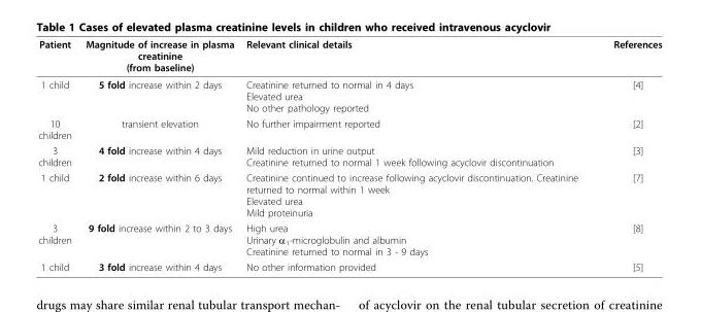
<table><thead><tr><td>Patient</td><td>Magnitude of increase in plasma creatinine (from baseline)</td><td>Relevant clinical details</td><td>References</td></tr></thead><tbody><tr><td>1 child</td><td>5 fold increase within 2 days</td><td>Creatinine returned to normal in 4 days Elevated urea No other pathology reported</td><td>[4]</td></tr><tr><td>10 children</td><td>transient elevation</td><td>No further impairment reported</td><td>[2]</td></tr><tr><td>3 children</td><td>4 fold increase within 4 days</td><td>Mild reduction in urine output Creatinine returned to normal 1 week following acyclovir discontinuation</td><td>[3]</td></tr><tr><td>1 child</td><td>2 fold increase within 6 days</td><td>Creatinine continued to increase following acyclovir discontinuation. Creatinine returned to normal within 1 week Elevated urea Mild proteinuria</td><td>[7]</td></tr><tr><td>3 children</td><td>9 fold increase within 2 to 3 days</td><td>High urea Urinary α<sub>1</sub>-microglobulin and albumin Creatinine returned to normal in 3 - 9 days</td><td>[8]</td></tr><tr><td>1 child</td><td>3 fold increase within 4 days</td><td>No other information provided</td><td>[5]</td></tr></tbody></table>